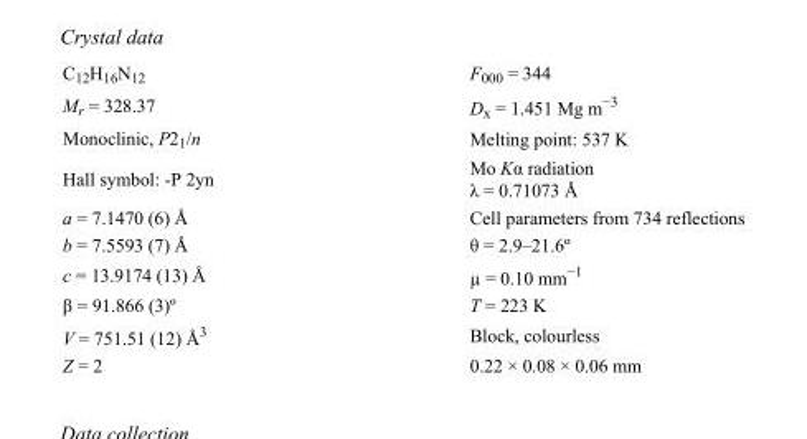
<table><tbody><tr><td>C<sub>12</sub>H<sub>16</sub>N<sub>12</sub></td><td>F000 = 344</td></tr><tr><td>M<sub>r</sub> = 328.37</td><td>D<sub>x</sub> = 1.451 Mg m<sup>−3</sup></td></tr><tr><td>Monoclinic, P2<sub>1</sub>/n</td><td>Melting point: 537 K</td></tr><tr><td>Hall symbol: -P 2yn</td><td>Mo Kα radiation λ = 0.71073 Å</td></tr><tr><td>a = 7.1470 (6) Å</td><td>Cell parameters from 734 reflections</td></tr><tr><td>b = 7.5593 (7) Å</td><td>θ = 2.9–21.6º</td></tr><tr><td>c = 13.9174 (13) Å</td><td>µ = 0.10 mm<sup>−1</sup></td></tr><tr><td>β = 91.866 (3)º</td><td>T = 223 K</td></tr><tr><td>V = 751.51 (12) Å<sup>3</sup></td><td>Block, colourless</td></tr><tr><td>Z = 2</td><td>0.22 × 0.08 × 0.06 mm</td></tr></tbody></table>